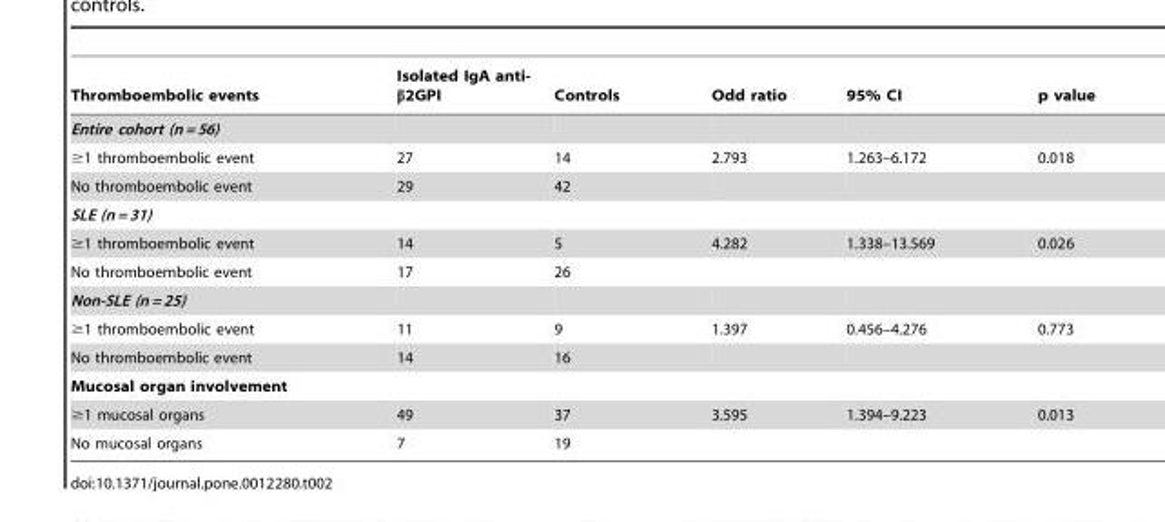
<table><thead><tr><td>Thromboembolic events</td><td>Isolated IgA anti- β2GPI</td><td>Controls</td><td>Odd ratio</td><td>95% CI</td><td>p value</td></tr></thead><tbody><tr><td colspan="6">Entire cohort (n = 56)</td></tr><tr><td>≥1 thromboembolic event</td><td>27</td><td>14</td><td>2.793</td><td>1.263–6.172</td><td>0.018</td></tr><tr><td>No thromboembolic event</td><td>29</td><td>42</td><td></td><td></td><td></td></tr><tr><td colspan="6">SLE (n = 31)</td></tr><tr><td>≥1 thromboembolic event</td><td>14</td><td>5</td><td>4.282</td><td>1.338–13.569</td><td>0.026</td></tr><tr><td>No thromboembolic event</td><td>17</td><td>26</td><td></td><td></td><td></td></tr><tr><td colspan="6">Non-SLE (n = 25)</td></tr><tr><td>≥1 thromboembolic event</td><td>11</td><td>9</td><td>1.397</td><td>0.456–4.276</td><td>0.773</td></tr><tr><td>No thromboembolic event</td><td>14</td><td>16</td><td></td><td></td><td></td></tr><tr><td colspan="6">Mucosal organ involvement</td></tr><tr><td>≥1 mucosal organs</td><td>49</td><td>37</td><td>3.595</td><td>1.394–9.223</td><td>0.013</td></tr><tr><td>No mucosal organs</td><td>7</td><td>19</td><td></td><td></td><td></td></tr></tbody></table>